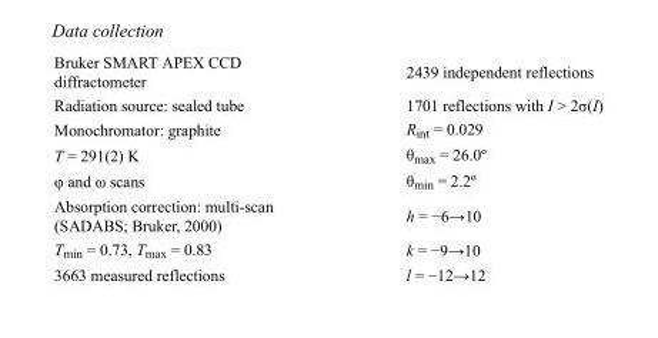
<table><tbody><tr><td>Bruker SMART APEX CCD diffractometer</td><td>2439 independent reflections</td></tr><tr><td>Radiation source: sealed tube</td><td>1701 reflections with I &gt; 2σ(I)</td></tr><tr><td>Monochromator: graphite</td><td>R<sub>int</sub> = 0.029</td></tr><tr><td>T = 291(2) K</td><td>θ<sub>max</sub> = 26.0º</td></tr><tr><td>φ and ω scans</td><td>θ<sub>min</sub> = 2.2º</td></tr><tr><td>Absorption correction: multi-scan (SADABS; Bruker, 2000)</td><td>h = −6→10</td></tr><tr><td>T<sub>min</sub> = 0.73, T<sub>max</sub> = 0.83</td><td>k = −9→10</td></tr><tr><td>3663 measured reflections</td><td>l = −12→12</td></tr></tbody></table>